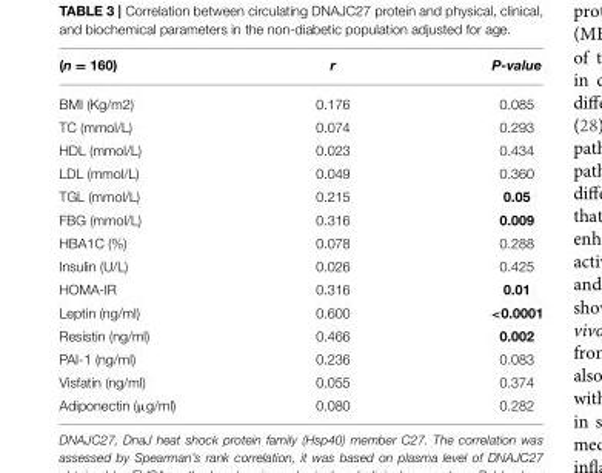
<table><thead><tr><td>(n = 160)</td><td>r</td><td>P-value</td></tr></thead><tbody><tr><td>BMI (Kg/m2)</td><td>0.176</td><td>0.085</td></tr><tr><td>TC (mmol/L)</td><td>0.074</td><td>0.293</td></tr><tr><td>HDL (mmol/L)</td><td>0.023</td><td>0.434</td></tr><tr><td>LDL (mmol/L)</td><td>0.049</td><td>0.360</td></tr><tr><td>TGL (mmol/L)</td><td>0.215</td><td>0.05</td></tr><tr><td>FBG (mmol/L)</td><td>0.316</td><td>0.009</td></tr><tr><td>HBA1C (%)</td><td>0.078</td><td>0.288</td></tr><tr><td>Insulin (U/L)</td><td>0.026</td><td>0.425</td></tr><tr><td>HOMA-IR</td><td>0.316</td><td>0.01</td></tr><tr><td>Leptin (ng/ml)</td><td>0.600</td><td>&lt;0.0001</td></tr><tr><td>Resistin (ng/ml)</td><td>0.466</td><td>0.002</td></tr><tr><td>PAI-1 (ng/ml)</td><td>0.236</td><td>0.083</td></tr><tr><td>Visfatin (ng/ml)</td><td>0.055</td><td>0.374</td></tr><tr><td>Adiponectin (µg/ml)</td><td>0.080</td><td>0.282</td></tr></tbody></table>